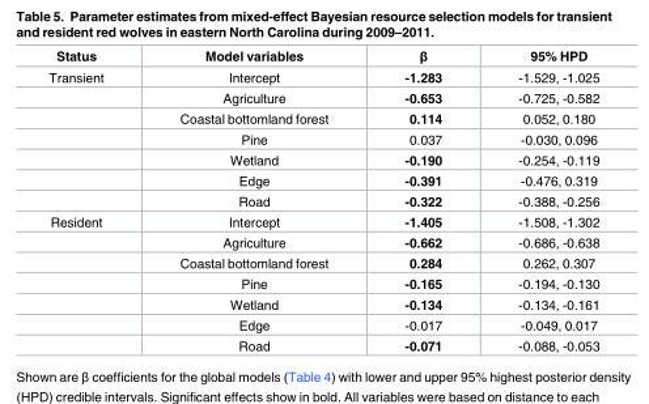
<table><thead><tr><td>Status</td><td>Model variables</td><td>β</td><td>95% HPD</td></tr></thead><tbody><tr><td rowspan="7">Transient</td><td>Intercept</td><td>-1.283</td><td>-1.529, -1.025</td></tr><tr><td>Agriculture</td><td>-0.653</td><td>-0.725, -0.582</td></tr><tr><td>Coastal bottomland forest</td><td>0.114</td><td>0.052, 0.180</td></tr><tr><td>Pine</td><td>0.037</td><td>-0.030, 0.096</td></tr><tr><td>Wetland</td><td>-0.190</td><td>-0.254, -0.119</td></tr><tr><td>Edge</td><td>-0.391</td><td>-0.476, 0.319</td></tr><tr><td>Road</td><td>-0.322</td><td>-0.388, -0.256</td></tr><tr><td rowspan="7">Resident</td><td>Intercept</td><td>-1.405</td><td>-1.508, -1.302</td></tr><tr><td>Agriculture</td><td>-0.662</td><td>-0.686, -0.638</td></tr><tr><td>Coastal bottomland forest</td><td>0.284</td><td>0.262, 0.307</td></tr><tr><td>Pine</td><td>-0.165</td><td>-0.194, -0.130</td></tr><tr><td>Wetland</td><td>-0.134</td><td>-0.134, -0.161</td></tr><tr><td>Edge</td><td>-0.017</td><td>-0.049, 0.017</td></tr><tr><td>Road</td><td>-0.071</td><td>-0.088, -0.053</td></tr></tbody></table>